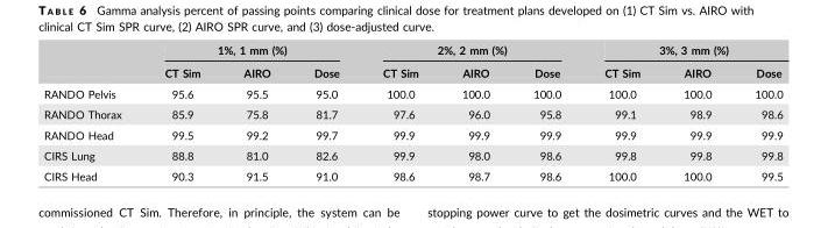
<table><thead><tr><td rowspan="2"></td><td colspan="3">1%, 1 mm (%)</td><td colspan="3">2%, 2 mm (%)</td><td colspan="3">3%, 3 mm (%)</td></tr><tr><td>CT Sim</td><td>AIRO</td><td>Dose</td><td>CT Sim</td><td>AIRO</td><td>Dose</td><td>CT Sim</td><td>AIRO</td><td>Dose</td></tr></thead><tbody><tr><td>RANDO Pelvis</td><td>95.6</td><td>95.5</td><td>95.0</td><td>100.0</td><td>100.0</td><td>100.0</td><td>100.0</td><td>100.0</td><td>100.0</td></tr><tr><td>RANDO Thorax</td><td>85.9</td><td>75.8</td><td>81.7</td><td>97.6</td><td>96.0</td><td>95.8</td><td>99.1</td><td>98.9</td><td>98.6</td></tr><tr><td>RANDO Head</td><td>99.5</td><td>99.2</td><td>99.7</td><td>99.9</td><td>99.9</td><td>99.9</td><td>99.9</td><td>99.9</td><td>99.9</td></tr><tr><td>CIRS Lung</td><td>88.8</td><td>81.0</td><td>82.6</td><td>99.9</td><td>98.0</td><td>98.6</td><td>99.8</td><td>99.8</td><td>99.8</td></tr><tr><td>CIRS Head</td><td>90.3</td><td>91.5</td><td>91.0</td><td>98.6</td><td>98.7</td><td>98.6</td><td>100.0</td><td>100.0</td><td>99.5</td></tr></tbody></table>